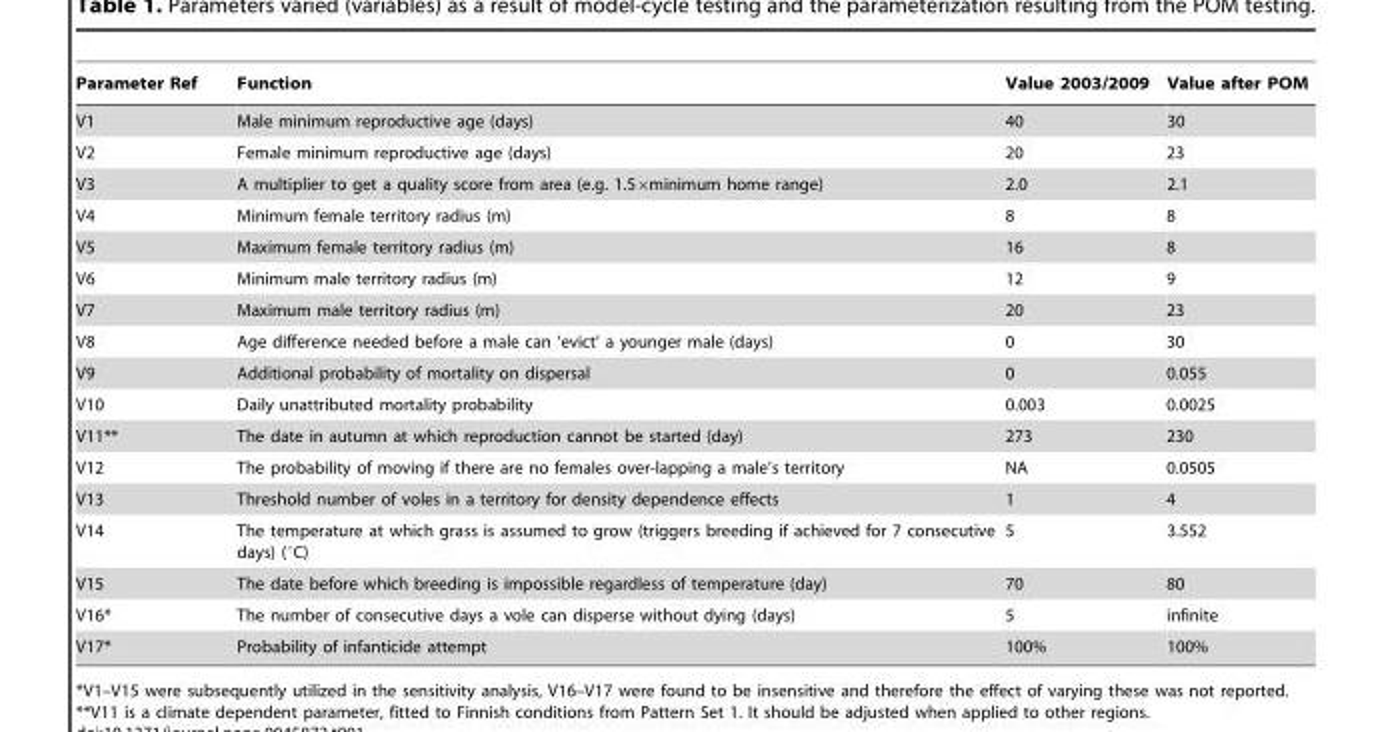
<table><thead><tr><td>Parameter Ref</td><td>Function</td><td>Value 2003/2009</td><td>Value after POM</td></tr></thead><tbody><tr><td>V1</td><td>Male minimum reproductive age (days)</td><td>40</td><td>30</td></tr><tr><td>V2</td><td>Female minimum reproductive age (days)</td><td>20</td><td>23</td></tr><tr><td>V3</td><td>A multiplier to get a quality score from area (e.g. 1.5×minimum home range)</td><td>2.0</td><td>2.1</td></tr><tr><td>V4</td><td>Minimum female territory radius (m)</td><td>8</td><td>8</td></tr><tr><td>V5</td><td>Maximum female territory radius (m)</td><td>16</td><td>8</td></tr><tr><td>V6</td><td>Minimum male territory radius (m)</td><td>12</td><td>9</td></tr><tr><td>V7</td><td>Maximum male territory radius (m)</td><td>20</td><td>23</td></tr><tr><td>V8</td><td>Age difference needed before a male can ‘evict’ a younger male (days)</td><td>0</td><td>30</td></tr><tr><td>V9</td><td>Additional probability of mortality on dispersal</td><td>0</td><td>0.055</td></tr><tr><td>V10</td><td>Daily unattributed mortality probability</td><td>0.003</td><td>0.0025</td></tr><tr><td>V11**</td><td>The date in autumn at which reproduction cannot be started (day)</td><td>273</td><td>230</td></tr><tr><td>V12</td><td>The probability of moving if there are no females over-lapping a male’s territory</td><td>NA</td><td>0.0505</td></tr><tr><td>V13</td><td>Threshold number of voles in a territory for density dependence effects</td><td>1</td><td>4</td></tr><tr><td>V14</td><td>The temperature at which grass is assumed to grow (triggers breeding if achieved for 7 consecutive days) (°C)</td><td>5</td><td>3.552</td></tr><tr><td>V15</td><td>The date before which breeding is impossible regardless of temperature (day)</td><td>70</td><td>80</td></tr><tr><td>V16*</td><td>The number of consecutive days a vole can disperse without dying (days)</td><td>5</td><td>infinite</td></tr><tr><td>V17*</td><td>Probability of infanticide attempt</td><td>100%</td><td>100%</td></tr></tbody></table>